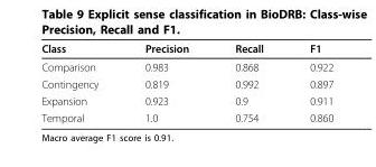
<table><thead><tr><td>Class</td><td>Precision</td><td>Recall</td><td>F1</td></tr></thead><tbody><tr><td>Comparison</td><td>0.983</td><td>0.868</td><td>0.922</td></tr><tr><td>Contingency</td><td>0.819</td><td>0.992</td><td>0.897</td></tr><tr><td>Expansion</td><td>0.923</td><td>0.9</td><td>0.911</td></tr><tr><td>Temporal</td><td>1.0</td><td>0.754</td><td>0.860</td></tr></tbody></table>